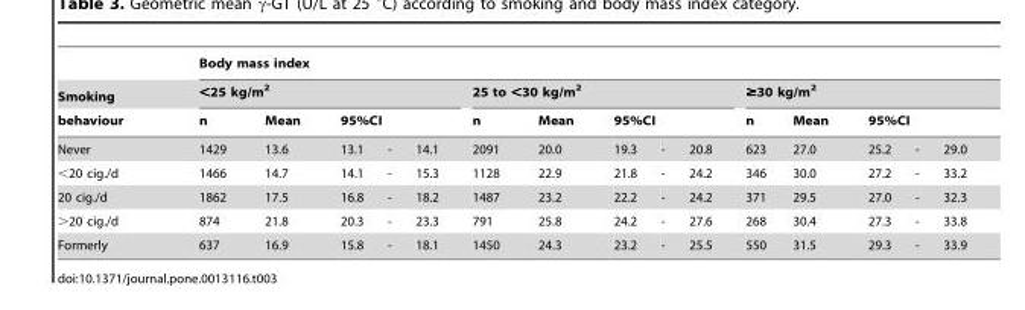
<table><thead><tr><td rowspan="4">Smoking behaviour Never</td><td colspan="15">Body mass index</td></tr><tr><td colspan="5">&lt;25 kg/m<sup>2</sup></td><td colspan="5">25 to &lt;30 kg/m<sup>2</sup></td><td colspan="5">≥30 kg/m<sup>2</sup></td></tr><tr><td rowspan="2">n 1429</td><td rowspan="2">Mean 13.6</td><td colspan="3">95%CI</td><td rowspan="2">n 2091</td><td rowspan="2">Mean 20.0</td><td colspan="3">95%CI</td><td rowspan="2">n 623</td><td rowspan="2">Mean 27.0</td><td colspan="3">95%CI</td></tr><tr><td>13.1</td><td>-</td><td>14.1</td><td>19.3</td><td>-</td><td>20.8</td><td>25.2</td><td>-</td><td>29.0</td></tr></thead><tbody><tr><td>&lt;20 cig./d</td><td>1466</td><td>14.7</td><td>14.1</td><td>-</td><td>15.3</td><td>1128</td><td>22.9</td><td>21.8</td><td>-</td><td>24.2</td><td>346</td><td>30.0</td><td>27.2</td><td>-</td><td>33.2</td></tr><tr><td>20 cig./d</td><td>1862</td><td>17.5</td><td>16.8</td><td>-</td><td>18.2</td><td>1487</td><td>23.2</td><td>22.2</td><td>-</td><td>24.2</td><td>371</td><td>29.5</td><td>27.0</td><td>-</td><td>32.3</td></tr><tr><td>&gt;20 cig./d</td><td>874</td><td>21.8</td><td>20.3</td><td>-</td><td>23.3</td><td>791</td><td>25.8</td><td>24.2</td><td>-</td><td>27.6</td><td>268</td><td>30.4</td><td>27.3</td><td>-</td><td>33.8</td></tr><tr><td>Formerly</td><td>637</td><td>16.9</td><td>15.8</td><td>-</td><td>18.1</td><td>1450</td><td>24.3</td><td>23.2</td><td>-</td><td>25.5</td><td>550</td><td>31.5</td><td>29.3</td><td>-</td><td>33.9</td></tr></tbody></table>